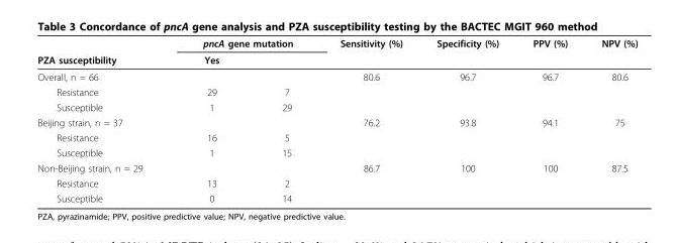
<table><thead><tr><td rowspan="2">PZA susceptibility</td><td colspan="2">pncA gene mutation</td><td rowspan="2">Sensitivity (%)</td><td rowspan="2">Specificity (%)</td><td rowspan="2">PPV (%)</td><td rowspan="2">NPV (%)</td></tr><tr><td>Yes</td><td></td></tr></thead><tbody><tr><td>Overall, n = 66</td><td></td><td></td><td>80.6</td><td>96.7</td><td>96.7</td><td>80.6</td></tr><tr><td>Resistance</td><td>29</td><td>7</td><td></td><td></td><td></td><td></td></tr><tr><td>Susceptible</td><td>1</td><td>29</td><td></td><td></td><td></td><td></td></tr><tr><td>Beijing strain, n = 37</td><td></td><td></td><td>76.2</td><td>93.8</td><td>94.1</td><td>75</td></tr><tr><td>Resistance</td><td>16</td><td>5</td><td></td><td></td><td></td><td></td></tr><tr><td>Susceptible</td><td>1</td><td>15</td><td></td><td></td><td></td><td></td></tr><tr><td>Non-Beijing strain, n = 29</td><td></td><td></td><td>86.7</td><td>100</td><td>100</td><td>87.5</td></tr><tr><td>Resistance</td><td>13</td><td>2</td><td></td><td></td><td></td><td></td></tr><tr><td>Susceptible</td><td>0</td><td>14</td><td></td><td></td><td></td><td></td></tr></tbody></table>